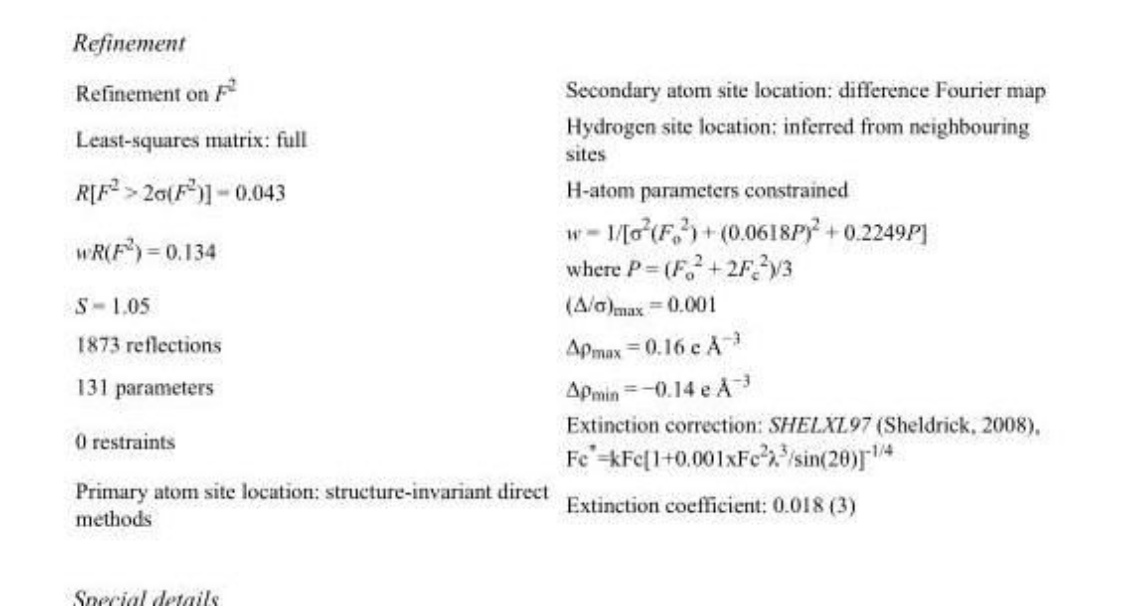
<table><tbody><tr><td>Refinement on F<sup>2</sup></td><td>Secondary atom site location: difference Fourier map</td></tr><tr><td>Least-squares matrix: full</td><td>Hydrogen site location: inferred from neighbouring sites</td></tr><tr><td>R[F<sup>2</sup> &gt; 2σ(F<sup>2</sup>)] = 0.043</td><td>H-atom parameters constrained</td></tr><tr><td>wR(F<sup>2</sup>) = 0.134</td><td>w = 1/[σ<sup>2</sup>(F<sub>o</sub> <sup>2</sup>) + (0.0618P)<sup>2</sup> + 0.2249P] where P = (F<sub>o</sub> <sup>2</sup> + 2F<sub>c</sub> <sup>2</sup>)/3</td></tr><tr><td>S = 1.05</td><td>(Δ/σ)<sub>max</sub> = 0.001</td></tr><tr><td>1873 reflections</td><td>Δρ<sub>max</sub> = 0.16 e Å<sup>−3</sup></td></tr><tr><td>131 parameters</td><td>Δρmin = −0.14 e Å−3</td></tr><tr><td>0 restraints</td><td>Extinction correction: SHELXL97 (Sheldrick, 2008), Fc*=kFc[1+0.001xFc<sup>2</sup>λ<sup>3</sup>/sin(2θ)]<sup>-1/4</sup></td></tr><tr><td>Primary atom site location: structure-invariant direct methods</td><td>Extinction coefficient: 0.018 (3)</td></tr></tbody></table>